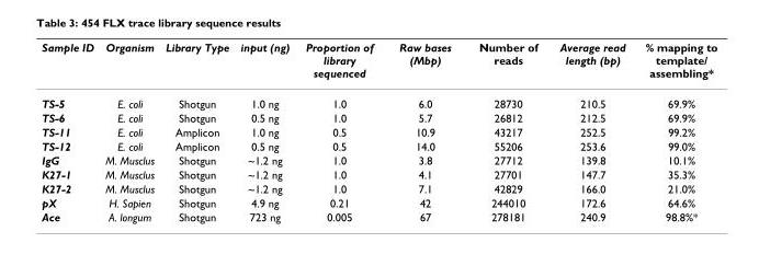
<table><thead><tr><td>Sample ID</td><td>Organism</td><td>Library Type</td><td>input (ng)</td><td>Proportion of library sequenced</td><td>Raw bases (Mbp)</td><td>Number of reads</td><td>Average read length (bp)</td><td>% mapping to template/ assembling*</td></tr></thead><tbody><tr><td>TS-5</td><td>E. coli</td><td>Shotgun</td><td>1.0 ng</td><td>1.0</td><td>6.0</td><td>28730</td><td>210.5</td><td>69.9%</td></tr><tr><td>TS-6</td><td>E. coli</td><td>Shotgun</td><td>0.5 ng</td><td>1.0</td><td>5.7</td><td>26812</td><td>212.5</td><td>69.9%</td></tr><tr><td>TS-11</td><td>E. coli</td><td>Amplicon</td><td>1.0 ng</td><td>0.5</td><td>10.9</td><td>43217</td><td>252.5</td><td>99.2%</td></tr><tr><td>TS-12</td><td>E. coli</td><td>Amplicon</td><td>0.5 ng</td><td>0.5</td><td>14.0</td><td>55206</td><td>253.6</td><td>99.0%</td></tr><tr><td>IgG</td><td>M. Musclus</td><td>Shotgun</td><td>~1.2 ng</td><td>1.0</td><td>3.8</td><td>27712</td><td>139.8</td><td>10.1%</td></tr><tr><td>K27-1</td><td>M. Musclus</td><td>Shotgun</td><td>~1.2 ng</td><td>1.0</td><td>4.1</td><td>27701</td><td>147.7</td><td>35.3%</td></tr><tr><td>K27-2</td><td>M. Musclus</td><td>Shotgun</td><td>~1.2 ng</td><td>1.0</td><td>7.1</td><td>42829</td><td>166.0</td><td>21.0%</td></tr><tr><td>pX</td><td>H. Sapien</td><td>Shotgun</td><td>4.9 ng</td><td>0.21</td><td>42</td><td>244010</td><td>172.6</td><td>64.6%</td></tr><tr><td>Ace</td><td>A. longum</td><td>Shotgun</td><td>723 ng</td><td>0.005</td><td>67</td><td>278181</td><td>240.9</td><td>98.8%*</td></tr></tbody></table>